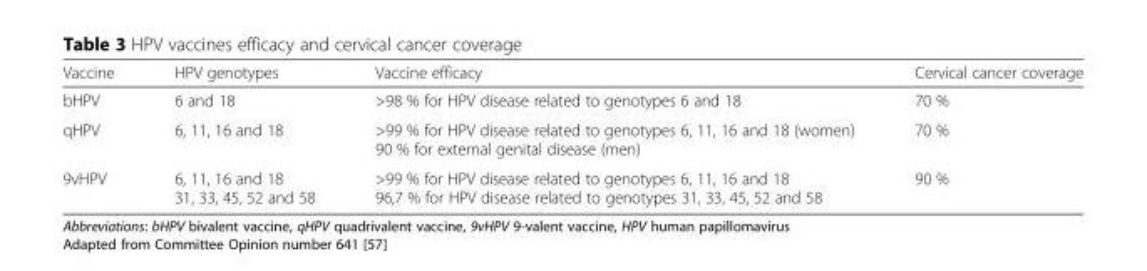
<table><thead><tr><td>Vaccine</td><td>HPV genotypes</td><td>Vaccine efficacy</td><td>Cervical cancer coverage</td></tr></thead><tbody><tr><td>bHPV</td><td>6 and 18</td><td>&gt;98 % for HPV disease related to genotypes 6 and 18</td><td>70 %</td></tr><tr><td>qHPV</td><td>6, 11, 16 and 18</td><td>&gt;99 % for HPV disease related to genotypes 6, 11, 16 and 18 (women) 90 % for external genital disease (men)</td><td>70 %</td></tr><tr><td>9vHPV</td><td>6, 11, 16 and 18 31, 33, 45, 52 and 58</td><td>&gt;99 % for HPV disease related to genotypes 6, 11, 16 and 18 96,7 % for HPV disease related to genotypes 31, 33, 45, 52 and 58</td><td>90 %</td></tr></tbody></table>